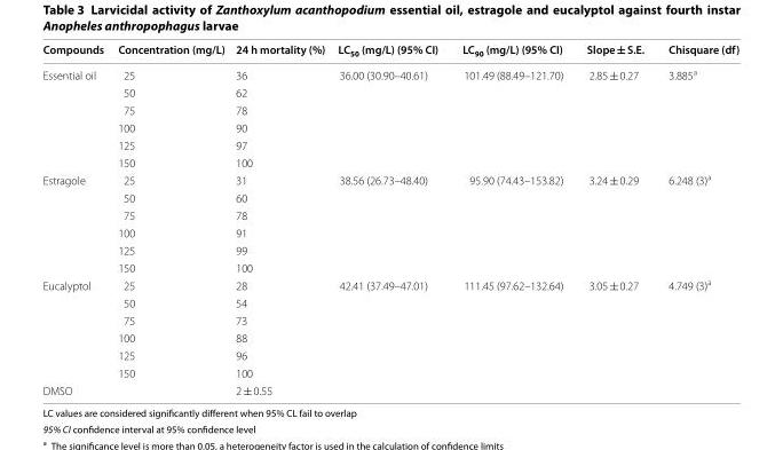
<table><thead><tr><td>Compounds</td><td>Concentration (mg/L)</td><td>24 h mortality (%)</td><td>LC<sub>50</sub> (mg/L) (95% CI)</td><td>LC<sub>90</sub> (mg/L) (95% CI)</td><td>Slope ± S.E.</td><td>Chisquare (df)</td></tr></thead><tbody><tr><td rowspan="6">Essential oil</td><td>25</td><td>36</td><td rowspan="6">36.00 (30.90–40.61)</td><td rowspan="6">101.49 (88.49–121.70)</td><td rowspan="6">2.85 ± 0.27</td><td rowspan="6">3.885<sup>a</sup></td></tr><tr><td>50</td><td>62</td></tr><tr><td>75</td><td>78</td></tr><tr><td>100</td><td>90</td></tr><tr><td>125</td><td>97</td></tr><tr><td>150</td><td>100</td></tr><tr><td rowspan="6">Estragole</td><td>25</td><td>31</td><td rowspan="6">38.56 (26.73–48.40)</td><td rowspan="6">95.90 (74.43–153.82)</td><td rowspan="6">3.24 ± 0.29</td><td rowspan="6">6.248 (3)<sup>a</sup></td></tr><tr><td>50</td><td>60</td></tr><tr><td>75</td><td>78</td></tr><tr><td>100</td><td>91</td></tr><tr><td>125</td><td>99</td></tr><tr><td>150</td><td>100</td></tr><tr><td rowspan="6">Eucalyptol</td><td>25</td><td>28</td><td rowspan="6">42.41 (37.49–47.01)</td><td rowspan="6">111.45 (97.62–132.64)</td><td rowspan="6">3.05 ± 0.27</td><td rowspan="6">4.749 (3)<sup>a</sup></td></tr><tr><td>50</td><td>54</td></tr><tr><td>75</td><td>73</td></tr><tr><td>100</td><td>88</td></tr><tr><td>125</td><td>96</td></tr><tr><td>150</td><td>100</td></tr><tr><td>DMSO</td><td></td><td>2 ± 0.55</td><td></td><td></td><td></td><td></td></tr></tbody></table>